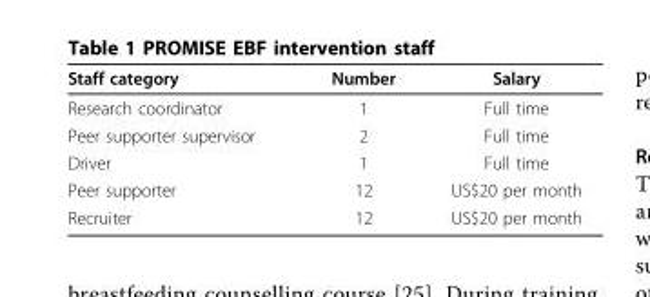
<table><thead><tr><td>Staff category</td><td>Number</td><td>Salary</td></tr></thead><tbody><tr><td>Research coordinator</td><td>1</td><td>Full time</td></tr><tr><td>Peer supporter supervisor</td><td>2</td><td>Full time</td></tr><tr><td>Driver</td><td>1</td><td>Full time</td></tr><tr><td>Peer supporter</td><td>12</td><td>US$20 per month</td></tr><tr><td>Recruiter</td><td>12</td><td>US$20 per month</td></tr></tbody></table>